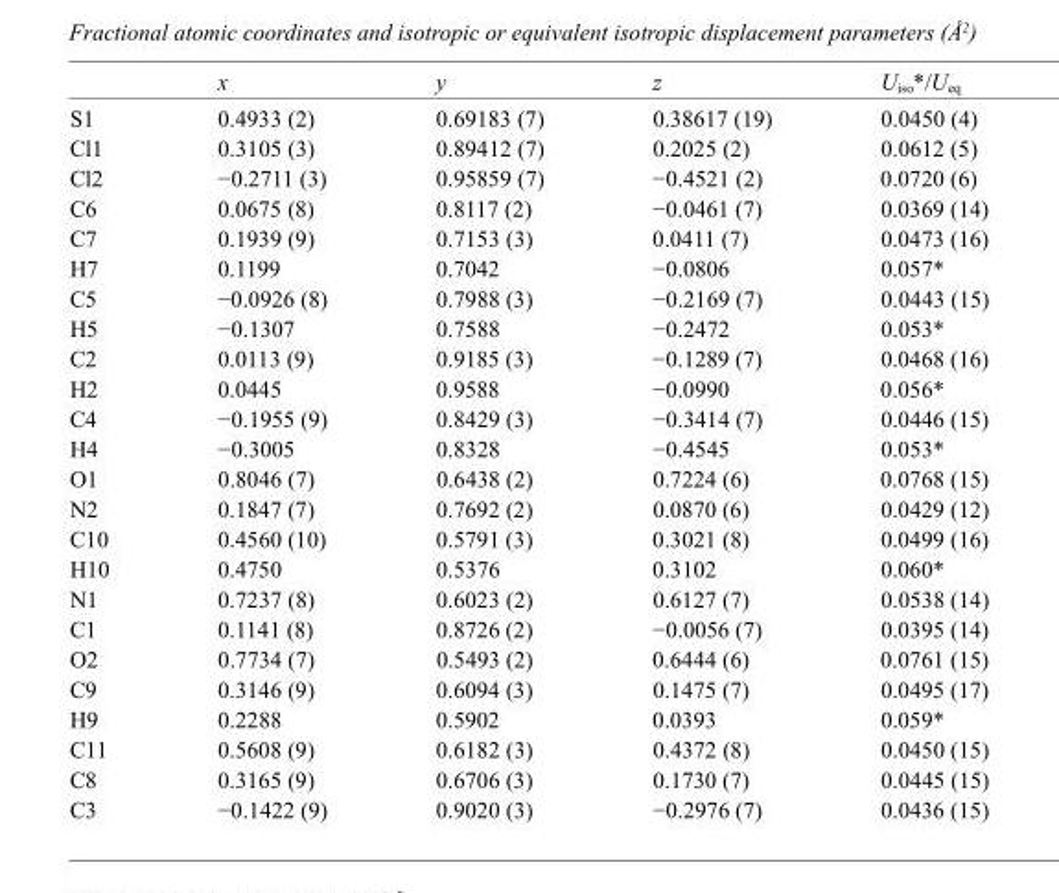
<table><thead><tr><td></td><td>x</td><td>y</td><td>z</td><td>U<sub>iso</sub>*/U<sub>eq</sub></td></tr></thead><tbody><tr><td>S1</td><td>0.4933 (2)</td><td>0.69183 (7)</td><td>0.38617 (19)</td><td>0.0450 (4)</td></tr><tr><td>Cl1</td><td>0.3105 (3)</td><td>0.89412 (7)</td><td>0.2025 (2)</td><td>0.0612 (5)</td></tr><tr><td>Cl2</td><td>−0.2711 (3)</td><td>0.95859 (7)</td><td>−0.4521 (2)</td><td>0.0720 (6)</td></tr><tr><td>C6</td><td>0.0675 (8)</td><td>0.8117 (2)</td><td>−0.0461 (7)</td><td>0.0369 (14)</td></tr><tr><td>C7</td><td>0.1939 (9)</td><td>0.7153 (3)</td><td>0.0411 (7)</td><td>0.0473 (16)</td></tr><tr><td>H7</td><td>0.1199</td><td>0.7042</td><td>−0.0806</td><td>0.057*</td></tr><tr><td>C5</td><td>−0.0926 (8)</td><td>0.7988 (3)</td><td>−0.2169 (7)</td><td>0.0443 (15)</td></tr><tr><td>H5</td><td>−0.1307</td><td>0.7588</td><td>−0.2472</td><td>0.053*</td></tr><tr><td>C2</td><td>0.0113 (9)</td><td>0.9185 (3)</td><td>−0.1289 (7)</td><td>0.0468 (16)</td></tr><tr><td>H2</td><td>0.0445</td><td>0.9588</td><td>−0.0990</td><td>0.056*</td></tr><tr><td>C4</td><td>−0.1955 (9)</td><td>0.8429 (3)</td><td>−0.3414 (7)</td><td>0.0446 (15)</td></tr><tr><td>H4</td><td>−0.3005</td><td>0.8328</td><td>−0.4545</td><td>0.053*</td></tr><tr><td>O1</td><td>0.8046 (7)</td><td>0.6438 (2)</td><td>0.7224 (6)</td><td>0.0768 (15)</td></tr><tr><td>N2</td><td>0.1847 (7)</td><td>0.7692 (2)</td><td>0.0870 (6)</td><td>0.0429 (12)</td></tr><tr><td>C10</td><td>0.4560 (10)</td><td>0.5791 (3)</td><td>0.3021 (8)</td><td>0.0499 (16)</td></tr><tr><td>H10</td><td>0.4750</td><td>0.5376</td><td>0.3102</td><td>0.060*</td></tr><tr><td>N1</td><td>0.7237 (8)</td><td>0.6023 (2)</td><td>0.6127 (7)</td><td>0.0538 (14)</td></tr><tr><td>C1</td><td>0.1141 (8)</td><td>0.8726 (2)</td><td>−0.0056 (7)</td><td>0.0395 (14)</td></tr><tr><td>O2</td><td>0.7734 (7)</td><td>0.5493 (2)</td><td>0.6444 (6)</td><td>0.0761 (15)</td></tr><tr><td>C9</td><td>0.3146 (9)</td><td>0.6094 (3)</td><td>0.1475 (7)</td><td>0.0495 (17)</td></tr><tr><td>H9</td><td>0.2288</td><td>0.5902</td><td>0.0393</td><td>0.059*</td></tr><tr><td>C11</td><td>0.5608 (9)</td><td>0.6182 (3)</td><td>0.4372 (8)</td><td>0.0450 (15)</td></tr><tr><td>C8</td><td>0.3165 (9)</td><td>0.6706 (3)</td><td>0.1730 (7)</td><td>0.0445 (15)</td></tr><tr><td>C3</td><td>−0.1422 (9)</td><td>0.9020 (3)</td><td>−0.2976 (7)</td><td>0.0436 (15)</td></tr></tbody></table>